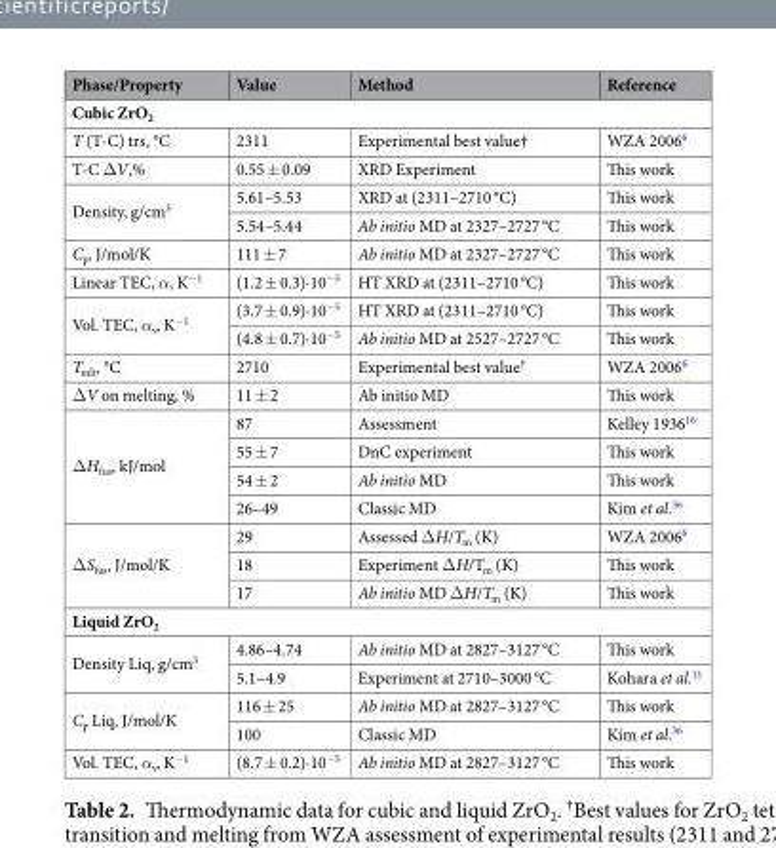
<table><thead><tr><td>Phase/Property</td><td>Value</td><td>Method</td><td>Reference</td></tr></thead><tbody><tr><td colspan="4">Cubic ZrO<sub>2</sub></td></tr><tr><td>T (T-C) trs, °C</td><td>2311</td><td>Experimental best value†</td><td>WZA 2006<sup>6</sup></td></tr><tr><td>T-C ΔV,%</td><td>0.55 ± 0.09</td><td>XRD Experiment</td><td>This work</td></tr><tr><td rowspan="2">Density, g/cm<sup>3</sup></td><td>5.61–5.53</td><td>XRD at (2311–2710 °C)</td><td>This work</td></tr><tr><td>5.54–5.44</td><td>Ab initio MD at 2327–2727 °C</td><td>This work</td></tr><tr><td>C<sub>p</sub>, J/mol/K</td><td>111 ± 7</td><td>Ab initio MD at 2327–2727 °C</td><td>This work</td></tr><tr><td>Linear TEC, α, K<sup>−1</sup></td><td>(1.2 ± 0.3)·10<sup>−5</sup></td><td>HT XRD at (2311–2710 °C)</td><td>This work</td></tr><tr><td rowspan="2">Vol. TEC, α<sub>v</sub>, K<sup>−1</sup></td><td>(3.7 ± 0.9)·10<sup>−5</sup></td><td>HT XRD at (2311–2710 °C)</td><td>This work</td></tr><tr><td>(4.8 ± 0.7)·10<sup>−5</sup></td><td>Ab initio MD at 2527–2727 °C</td><td>This work</td></tr><tr><td>T<sub>mlt</sub>, °C</td><td>2710</td><td>Experimental best value<sup>†</sup></td><td>WZA 2006<sup>6</sup></td></tr><tr><td>ΔV on melting, %</td><td>11 ± 2</td><td>Ab initio MD</td><td>This work</td></tr><tr><td rowspan="4">ΔH<sub>fus</sub>, kJ/mol</td><td>87</td><td>Assessment</td><td>Kelley 1936<sup>16</sup></td></tr><tr><td>55 ± 7</td><td>DnC experiment</td><td>This work</td></tr><tr><td>54 ± 2</td><td>Ab initio MD</td><td>This work</td></tr><tr><td>26–49</td><td>Classic MD</td><td>Kim et al.<sup>36</sup></td></tr><tr><td rowspan="3">ΔS<sub>fus</sub>, J/mol/K</td><td>29</td><td>Assessed ΔH/T<sub>m</sub> (K)</td><td>WZA 2006<sup>6</sup></td></tr><tr><td>18</td><td>Experiment ΔH/T<sub>m</sub> (K)</td><td>This work</td></tr><tr><td>17</td><td>Ab initio MD ΔH/T<sub>m</sub> (K)</td><td>This work</td></tr><tr><td colspan="4">Liquid ZrO<sub>2</sub></td></tr><tr><td rowspan="2">Density Liq, g/cm<sup>3</sup></td><td>4.86–4.74</td><td>Ab initio MD at 2827–3127 °C</td><td>This work</td></tr><tr><td>5.1–4.9</td><td>Experiment at 2710–3000 °C</td><td>Kohara et al.<sup>11</sup></td></tr><tr><td rowspan="2">C<sub>p</sub> Liq, J/mol/K</td><td>116 ± 25</td><td>Ab initio MD at 2827–3127 °C</td><td>This work</td></tr><tr><td>100</td><td>Classic MD</td><td>Kim et al.<sup>36</sup></td></tr><tr><td>Vol. TEC, α<sub>v</sub>, K<sup>−1</sup></td><td>(8.7 ± 0.2)·10<sup>−5</sup></td><td>Ab initio MD at 2827–3127 °C</td><td>This work</td></tr></tbody></table>